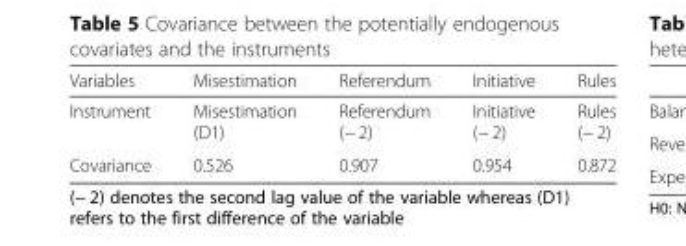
<table><thead><tr><td>Variables</td><td>Misestimation</td><td>Referendum</td><td>Initiative</td><td>Rules</td></tr></thead><tbody><tr><td>Instrument</td><td>Misestimation (D1)</td><td>Referendum (− 2)</td><td>Initiative (− 2)</td><td>Rules (− 2)</td></tr><tr><td>Covariance</td><td>0.526</td><td>0.907</td><td>0.954</td><td>0.872</td></tr></tbody></table>